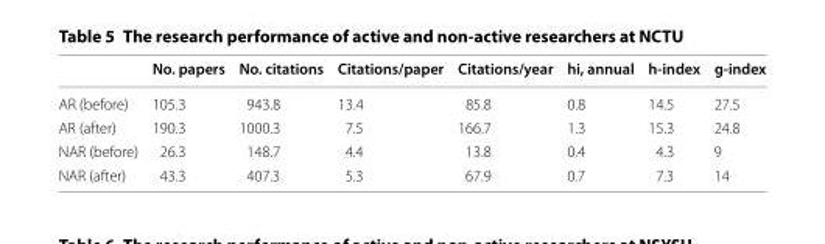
<table><thead><tr><td></td><td>No. papers</td><td>No. citations</td><td>Citations/paper</td><td>Citations/year</td><td>hi, annual</td><td>h-index</td><td>g-index</td></tr></thead><tbody><tr><td>AR (before)</td><td>105.3</td><td>943.8</td><td>13.4</td><td>85.8</td><td>0.8</td><td>14.5</td><td>27.5</td></tr><tr><td>AR (after)</td><td>190.3</td><td>1000.3</td><td>7.5</td><td>166.7</td><td>1.3</td><td>15.3</td><td>24.8</td></tr><tr><td>NAR (before)</td><td>26.3</td><td>148.7</td><td>4.4</td><td>13.8</td><td>0.4</td><td>4.3</td><td>9</td></tr><tr><td>NAR (after)</td><td>43.3</td><td>407.3</td><td>5.3</td><td>67.9</td><td>0.7</td><td>7.3</td><td>14</td></tr></tbody></table>